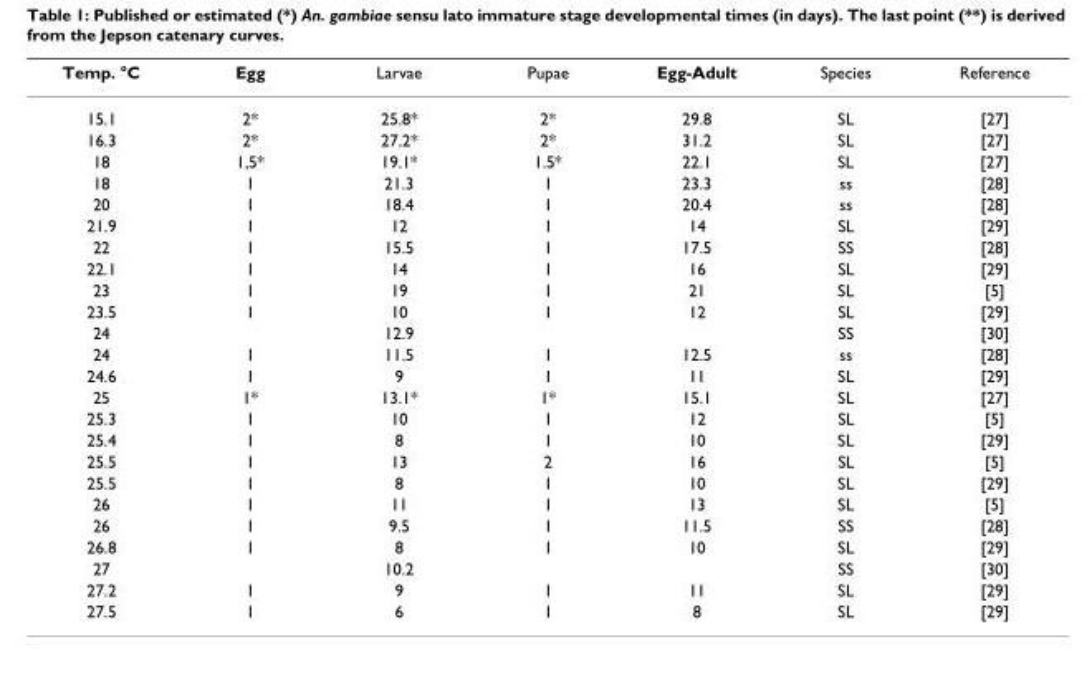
<table><thead><tr><td>Temp. °C</td><td>Egg</td><td>Larvae</td><td>Pupae</td><td>Egg-Adult</td><td>Species</td><td>Reference</td></tr></thead><tbody><tr><td>15.1</td><td>2*</td><td>25.8*</td><td>2*</td><td>29.8</td><td>SL</td><td>[27]</td></tr><tr><td>16.3</td><td>2*</td><td>27.2*</td><td>2*</td><td>31.2</td><td>SL</td><td>[27]</td></tr><tr><td>18</td><td>1,5*</td><td>19.1*</td><td>1.5*</td><td>22.1</td><td>SL</td><td>[27]</td></tr><tr><td>18</td><td>1</td><td>21.3</td><td>1</td><td>23.3</td><td>ss</td><td>[28]</td></tr><tr><td>20</td><td>1</td><td>18.4</td><td>1</td><td>20.4</td><td>ss</td><td>[28]</td></tr><tr><td>21.9</td><td>1</td><td>12</td><td>1</td><td>14</td><td>SL</td><td>[29]</td></tr><tr><td>22</td><td>1</td><td>15.5</td><td>1</td><td>17.5</td><td>SS</td><td>[28]</td></tr><tr><td>22.1</td><td>1</td><td>14</td><td>1</td><td>16</td><td>SL</td><td>[29]</td></tr><tr><td>23</td><td>1</td><td>19</td><td>1</td><td>21</td><td>SL</td><td>[5]</td></tr><tr><td>23.5</td><td>1</td><td>10</td><td>1</td><td>12</td><td>SL</td><td>[29]</td></tr><tr><td>24</td><td></td><td>12.9</td><td></td><td></td><td>SS</td><td>[30]</td></tr><tr><td>24</td><td>1</td><td>11.5</td><td>1</td><td>12.5</td><td>ss</td><td>[28]</td></tr><tr><td>24.6</td><td>1</td><td>9</td><td>1</td><td>11</td><td>SL</td><td>[29]</td></tr><tr><td>25</td><td>1*</td><td>13.1*</td><td>1*</td><td>15.1</td><td>SL</td><td>[27]</td></tr><tr><td>25.3</td><td>1</td><td>10</td><td>1</td><td>12</td><td>SL</td><td>[5]</td></tr><tr><td>25.4</td><td>1</td><td>8</td><td>1</td><td>10</td><td>SL</td><td>[29]</td></tr><tr><td>25.5</td><td>1</td><td>13</td><td>2</td><td>16</td><td>SL</td><td>[5]</td></tr><tr><td>25.5</td><td>1</td><td>8</td><td>1</td><td>10</td><td>SL</td><td>[29]</td></tr><tr><td>26</td><td>1</td><td>11</td><td>1</td><td>13</td><td>SL</td><td>[5]</td></tr><tr><td>26</td><td>1</td><td>9.5</td><td>1</td><td>11.5</td><td>SS</td><td>[28]</td></tr><tr><td>26.8</td><td>1</td><td>8</td><td>1</td><td>10</td><td>SL</td><td>[29]</td></tr><tr><td>27</td><td></td><td>10.2</td><td></td><td></td><td>SS</td><td>[30]</td></tr><tr><td>27.2</td><td>1</td><td>9</td><td>1</td><td>11</td><td>SL</td><td>[29]</td></tr><tr><td>27.5</td><td>1</td><td>6</td><td>1</td><td>8</td><td>SL</td><td>[29]</td></tr></tbody></table>